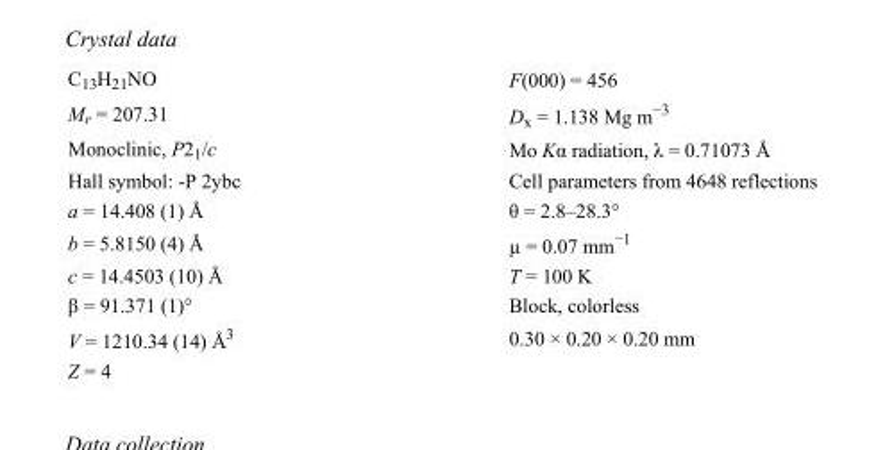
<table><tbody><tr><td>C<sub>13</sub>H<sub>21</sub>NO</td><td>F(000) = 456</td></tr><tr><td>M<sub>r</sub> = 207.31</td><td>D<sub>x</sub> = 1.138 Mg m<sup>−3</sup></td></tr><tr><td>Monoclinic, P2<sub>1</sub>/c</td><td>Mo Kα radiation, λ = 0.71073 Å</td></tr><tr><td>Hall symbol: -P 2ybc</td><td>Cell parameters from 4648 reflections</td></tr><tr><td>a = 14.408 (1) Å</td><td>θ = 2.8–28.3°</td></tr><tr><td>b = 5.8150 (4) Å</td><td>µ = 0.07 mm<sup>−1</sup></td></tr><tr><td>c = 14.4503 (10) Å</td><td>T = 100 K</td></tr><tr><td>β = 91.371 (1)°</td><td>Block, colorless</td></tr><tr><td>V = 1210.34 (14) Å<sup>3</sup></td><td>0.30 × 0.20 × 0.20 mm</td></tr><tr><td>Z = 4</td><td></td></tr></tbody></table>